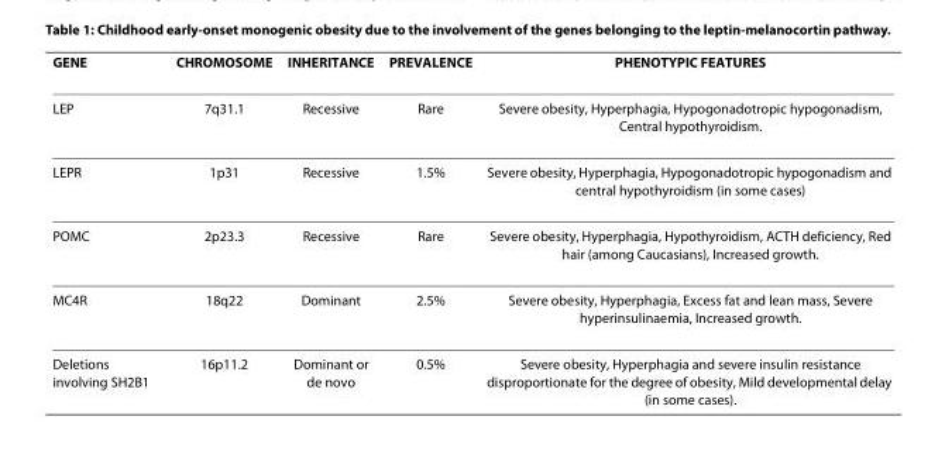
<table><thead><tr><td>GENE</td><td>CHROMOSOME</td><td>INHERITANCE</td><td>PREVALENCE</td><td>PHENOTYPIC FEATURES</td></tr></thead><tbody><tr><td>LEP</td><td>7q31.1</td><td>Recessive</td><td>Rare</td><td>Severe obesity, Hyperphagia, Hypogonadotropic hypogonadism, Central hypothyroidism.</td></tr><tr><td>LEPR</td><td>1p31</td><td>Recessive</td><td>1.5%</td><td>Severe obesity, Hyperphagia, Hypogonadotropic hypogonadism and central hypothyroidism (in some cases)</td></tr><tr><td>POMC</td><td>2p23.3</td><td>Recessive</td><td>Rare</td><td>Severe obesity, Hyperphagia, Hypothyroidism, ACTH deficiency, Red hair (among Caucasians), Increased growth.</td></tr><tr><td>MC4R</td><td>18q22</td><td>Dominant</td><td>2.5%</td><td>Severe obesity, Hyperphagia, Excess fat and lean mass, Severe hyperinsulinaemia, Increased growth.</td></tr><tr><td>Deletions involving SH2B1</td><td>16p11.2</td><td>Dominant or de novo</td><td>0.5%</td><td>Severe obesity, Hyperphagia and severe insulin resistance disproportionate for the degree of obesity, Mild developmental delay (in some cases).</td></tr></tbody></table>